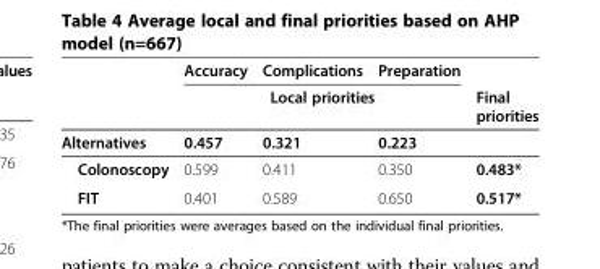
<table><thead><tr><td rowspan="2"></td><td>Accuracy</td><td>Complications</td><td>Preparation</td><td rowspan="2">Final priorities</td></tr><tr><td colspan="3">Local priorities</td></tr></thead><tbody><tr><td>Alternatives</td><td>0.457</td><td>0.321</td><td>0.223</td><td></td></tr><tr><td>Colonoscopy</td><td>0.599</td><td>0.411</td><td>0.350</td><td>0.483*</td></tr><tr><td>FIT</td><td>0.401</td><td>0.589</td><td>0.650</td><td>0.517*</td></tr></tbody></table>